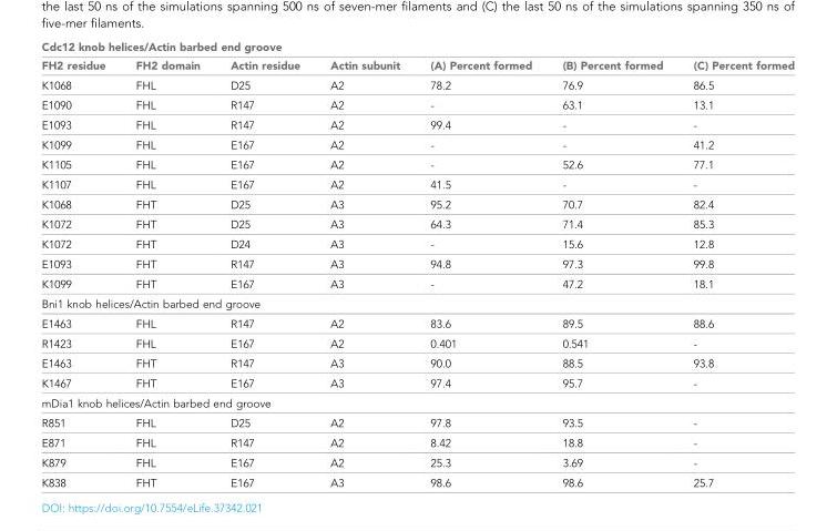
<table><thead><tr><td colspan="7">Cdc12 knob helices/Actin barbed end groove</td></tr><tr><td>FH2 residue</td><td>FH2 domain</td><td>Actin residue</td><td>Actin subunit</td><td>(A) Percent formed</td><td>(B) Percent formed</td><td>(C) Percent formed</td></tr></thead><tbody><tr><td>K1068</td><td>FHL</td><td>D25</td><td>A2</td><td>78.2</td><td>76.9</td><td>86.5</td></tr><tr><td>E1090</td><td>FHL</td><td>R147</td><td>A2</td><td>-</td><td>63.1</td><td>13.1</td></tr><tr><td>E1093</td><td>FHL</td><td>R147</td><td>A2</td><td>99.4</td><td>-</td><td>-</td></tr><tr><td>K1099</td><td>FHL</td><td>E167</td><td>A2</td><td>-</td><td>-</td><td>41.2</td></tr><tr><td>K1105</td><td>FHL</td><td>E167</td><td>A2</td><td>-</td><td>52.6</td><td>77.1</td></tr><tr><td>K1107</td><td>FHL</td><td>E167</td><td>A2</td><td>41.5</td><td>-</td><td>-</td></tr><tr><td>K1068</td><td>FHT</td><td>D25</td><td>A3</td><td>95.2</td><td>70.7</td><td>82.4</td></tr><tr><td>K1072</td><td>FHT</td><td>D25</td><td>A3</td><td>64.3</td><td>71.4</td><td>85.3</td></tr><tr><td>K1072</td><td>FHT</td><td>D24</td><td>A3</td><td>-</td><td>15.6</td><td>12.8</td></tr><tr><td>E1093</td><td>FHT</td><td>R147</td><td>A3</td><td>94.8</td><td>97.3</td><td>99.8</td></tr><tr><td>K1099</td><td>FHT</td><td>E167</td><td>A3</td><td>-</td><td>47.2</td><td>18.1</td></tr><tr><td colspan="7">Bni1 knob helices/Actin barbed end groove</td></tr><tr><td>E1463</td><td>FHL</td><td>R147</td><td>A2</td><td>83.6</td><td>89.5</td><td>88.6</td></tr><tr><td>R1423</td><td>FHL</td><td>E167</td><td>A2</td><td>0.401</td><td>0.541</td><td>-</td></tr><tr><td>E1463</td><td>FHT</td><td>R147</td><td>A3</td><td>90.0</td><td>88.5</td><td>93.8</td></tr><tr><td>K1467</td><td>FHT</td><td>E167</td><td>A3</td><td>97.4</td><td>95.7</td><td>-</td></tr><tr><td colspan="7">mDia1 knob helices/Actin barbed end groove</td></tr><tr><td>R851</td><td>FHL</td><td>D25</td><td>A2</td><td>97.8</td><td>93.5</td><td>-</td></tr><tr><td>E871</td><td>FHL</td><td>R147</td><td>A2</td><td>8.42</td><td>18.8</td><td>-</td></tr><tr><td>K879</td><td>FHL</td><td>E167</td><td>A2</td><td>25.3</td><td>3.69</td><td>-</td></tr><tr><td>K838</td><td>FHT</td><td>E167</td><td>A3</td><td>98.6</td><td>98.6</td><td>25.7</td></tr></tbody></table>